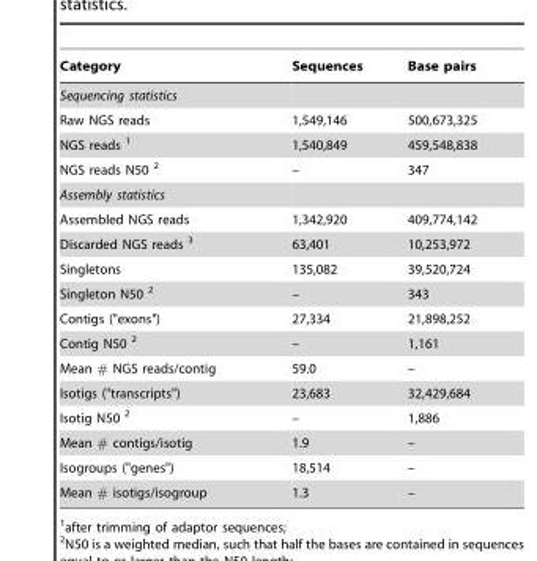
<table><thead><tr><td>Category</td><td>Sequences</td><td>Base pairs</td></tr></thead><tbody><tr><td colspan="3">Sequencing statistics</td></tr><tr><td>Raw NGS reads</td><td>1,549,146</td><td>500,673,325</td></tr><tr><td>NGS reads 1</td><td>1,540,849</td><td>459,548,838</td></tr><tr><td>NGS reads N50 2</td><td>–</td><td>347</td></tr><tr><td colspan="3">Assembly statistics</td></tr><tr><td>Assembled NGS reads</td><td>1,342,920</td><td>409,774,142</td></tr><tr><td>Discarded NGS reads 3</td><td>63,401</td><td>10,253,972</td></tr><tr><td>Singletons</td><td>135,082</td><td>39,520,724</td></tr><tr><td>Singleton N50 2</td><td>–</td><td>343</td></tr><tr><td>Contigs (&quot;exons&quot;)</td><td>27,334</td><td>21,898,252</td></tr><tr><td>Contig N50 2</td><td>–</td><td>1,161</td></tr><tr><td>Mean # NGS reads/contig</td><td>59.0</td><td>–</td></tr><tr><td>Isotigs (&quot;transcripts&quot;)</td><td>23,683</td><td>32,429,684</td></tr><tr><td>Isotig N50 2</td><td>–</td><td>1,886</td></tr><tr><td>Mean # contigs/isotig</td><td>1.9</td><td>–</td></tr><tr><td>Isogroups (&quot;genes&quot;)</td><td>18,514</td><td>–</td></tr><tr><td>Mean # isotigs/isogroup</td><td>1.3</td><td>–</td></tr></tbody></table>